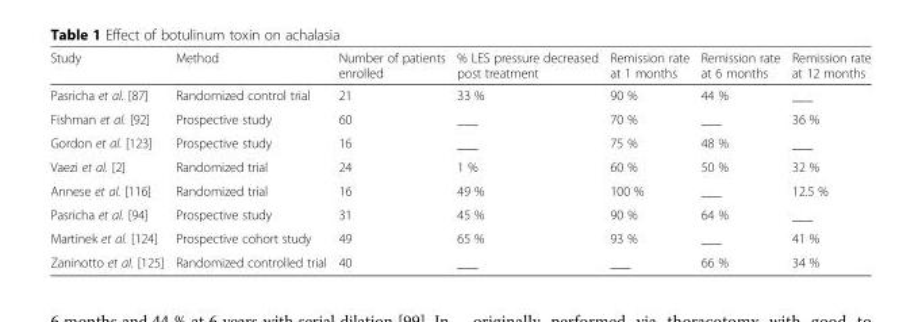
<table><thead><tr><td>Study</td><td>Method</td><td>Number of patients enrolled</td><td>% LES pressure decreased post treatment</td><td>Remission rate at 1 months</td><td>Remission rate at 6 months</td><td>Remission rate at 12 months</td></tr></thead><tbody><tr><td>Pasricha et al. [87]</td><td>Randomized control trial</td><td>21</td><td>33 %</td><td>90 %</td><td>44 %</td><td>___</td></tr><tr><td>Fishman et al. [92]</td><td>Prospective study</td><td>60</td><td>___</td><td>70 %</td><td>___</td><td>36 %</td></tr><tr><td>Gordon et al. [123]</td><td>Prospective study</td><td>16</td><td>___</td><td>75 %</td><td>48 %</td><td>___</td></tr><tr><td>Vaezi et al. [2]</td><td>Randomized trial</td><td>24</td><td>1 %</td><td>60 %</td><td>50 %</td><td>32 %</td></tr><tr><td>Annese et al. [116]</td><td>Randomized trial</td><td>16</td><td>49 %</td><td>100 %</td><td>___</td><td>12.5 %</td></tr><tr><td>Pasricha et al. [94]</td><td>Prospective study</td><td>31</td><td>45 %</td><td>90 %</td><td>64 %</td><td>___</td></tr><tr><td>Martinek et al. [124]</td><td>Prospective cohort study</td><td>49</td><td>65 %</td><td>93 %</td><td>___</td><td>41 %</td></tr><tr><td>Zaninotto et al. [125]</td><td>Randomized controlled trial</td><td>40</td><td>___</td><td>___</td><td>66 %</td><td>34 %</td></tr></tbody></table>